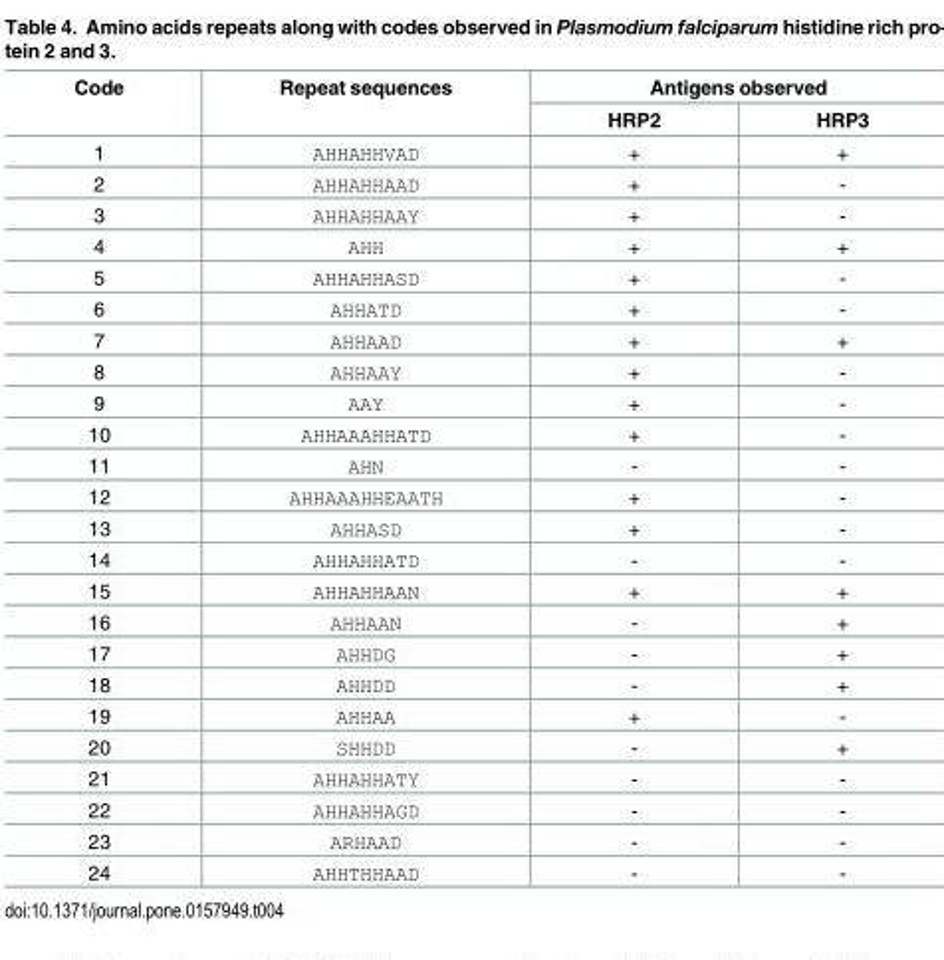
<table><thead><tr><td rowspan="2">Code</td><td rowspan="2">Repeat sequences</td><td colspan="2">Antigens observed</td></tr><tr><td>HRP2</td><td>HRP3</td></tr></thead><tbody><tr><td>1</td><td>AHHAHHVAD</td><td>+</td><td>+</td></tr><tr><td>2</td><td>AHHAHHAAD</td><td>+</td><td>-</td></tr><tr><td>3</td><td>AHHAHHAAY</td><td>+</td><td>-</td></tr><tr><td>4</td><td>AHH</td><td>+</td><td>+</td></tr><tr><td>5</td><td>AHHAHHASD</td><td>+</td><td>-</td></tr><tr><td>6</td><td>AHHATD</td><td>+</td><td>-</td></tr><tr><td>7</td><td>AHHAAD</td><td>+</td><td>+</td></tr><tr><td>8</td><td>AHHAAY</td><td>+</td><td>-</td></tr><tr><td>9</td><td>AAY</td><td>+</td><td>-</td></tr><tr><td>10</td><td>AHHAAAHHATD</td><td>+</td><td>-</td></tr><tr><td>11</td><td>AHN</td><td>-</td><td>-</td></tr><tr><td>12</td><td>AHHAAAHHEAATH</td><td>+</td><td>-</td></tr><tr><td>13</td><td>AHHASD</td><td>+</td><td>-</td></tr><tr><td>14</td><td>AHHAHHATD</td><td>-</td><td>-</td></tr><tr><td>15</td><td>AHHAHHAAN</td><td>+</td><td>+</td></tr><tr><td>16</td><td>AHHAAN</td><td>-</td><td>+</td></tr><tr><td>17</td><td>AHHDG</td><td>-</td><td>+</td></tr><tr><td>18</td><td>AHHDD</td><td>-</td><td>+</td></tr><tr><td>19</td><td>AHHAA</td><td>+</td><td>-</td></tr><tr><td>20</td><td>SHHDD</td><td>-</td><td>+</td></tr><tr><td>21</td><td>AHHAHHATY</td><td>-</td><td>-</td></tr><tr><td>22</td><td>AHHAHHAGD</td><td>-</td><td>-</td></tr><tr><td>23</td><td>ARHAAD</td><td>-</td><td>-</td></tr><tr><td>24</td><td>AHHTHHAAD</td><td>-</td><td>-</td></tr></tbody></table>